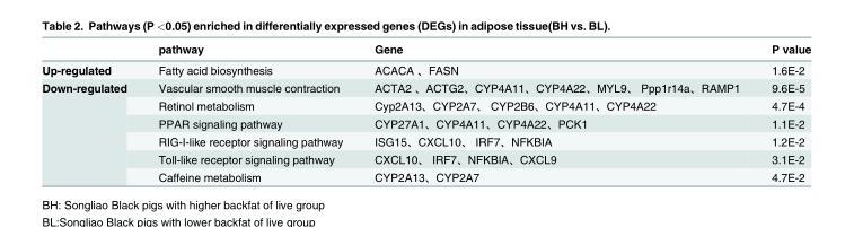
<table><thead><tr><td></td><td>pathway</td><td>Gene</td><td>P value</td></tr></thead><tbody><tr><td>Up-regulated</td><td>Fatty acid biosynthesis</td><td>ACACA 、FASN</td><td>1.6E-2</td></tr><tr><td rowspan="6">Down-regulated</td><td>Vascular smooth muscle contraction</td><td>ACTA2 、ACTG2、CYP4A11、CYP4A22、MYL9、 Ppp1r14a、RAMP1</td><td>9.6E-5</td></tr><tr><td>Retinol metabolism</td><td>Cyp2A13、CYP2A7、 CYP2B6、CYP4A11、CYP4A22</td><td>4.7E-4</td></tr><tr><td>PPAR signaling pathway</td><td>CYP27A1、CYP4A11、CYP4A22、PCK1</td><td>1.1E-2</td></tr><tr><td>RIG-I-like receptor signaling pathway</td><td>ISG15、CXCL10、 IRF7、NFKBIA</td><td>1.2E-2</td></tr><tr><td>Toll-like receptor signaling pathway</td><td>CXCL10、 IRF7、NFKBIA、CXCL9</td><td>3.1E-2</td></tr><tr><td>Caffeine metabolism</td><td>CYP2A13、CYP2A7</td><td>4.7E-2</td></tr></tbody></table>